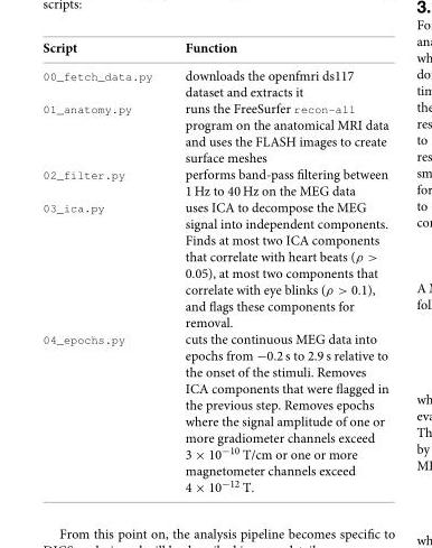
<table><thead><tr><td>Script</td><td>Function</td></tr></thead><tbody><tr><td>00_fetch_data.py</td><td>downloads the openfmri ds117 dataset and extracts it</td></tr><tr><td>01_anatomy.py</td><td>runs the FreeSurfer recon-all program on the anatomical MRI data and uses the FLASH images to create surface meshes</td></tr><tr><td>02_filter.py</td><td>performs band-pass filtering between 1 Hz to 40 Hz on the MEG data</td></tr><tr><td>03_ica.py</td><td>uses ICA to decompose the MEG signal into independent components. Finds at most two ICA components that correlate with heart beats (ρ &gt; 0.05), at most two components that correlate with eye blinks (ρ &gt; 0.1), and flags these components for removal.</td></tr><tr><td>04_epochs.py</td><td>cuts the continuous MEG data into epochs from −0.2 s to 2.9 s relative to the onset of the stimuli. Removes ICA components that were flagged in the previous step. Removes epochs where the signal amplitude of one or more gradiometer channels exceed 3 × 10−10 T/cm or one or more magnetometer channels exceed 4 × 10−12 T.</td></tr></tbody></table>